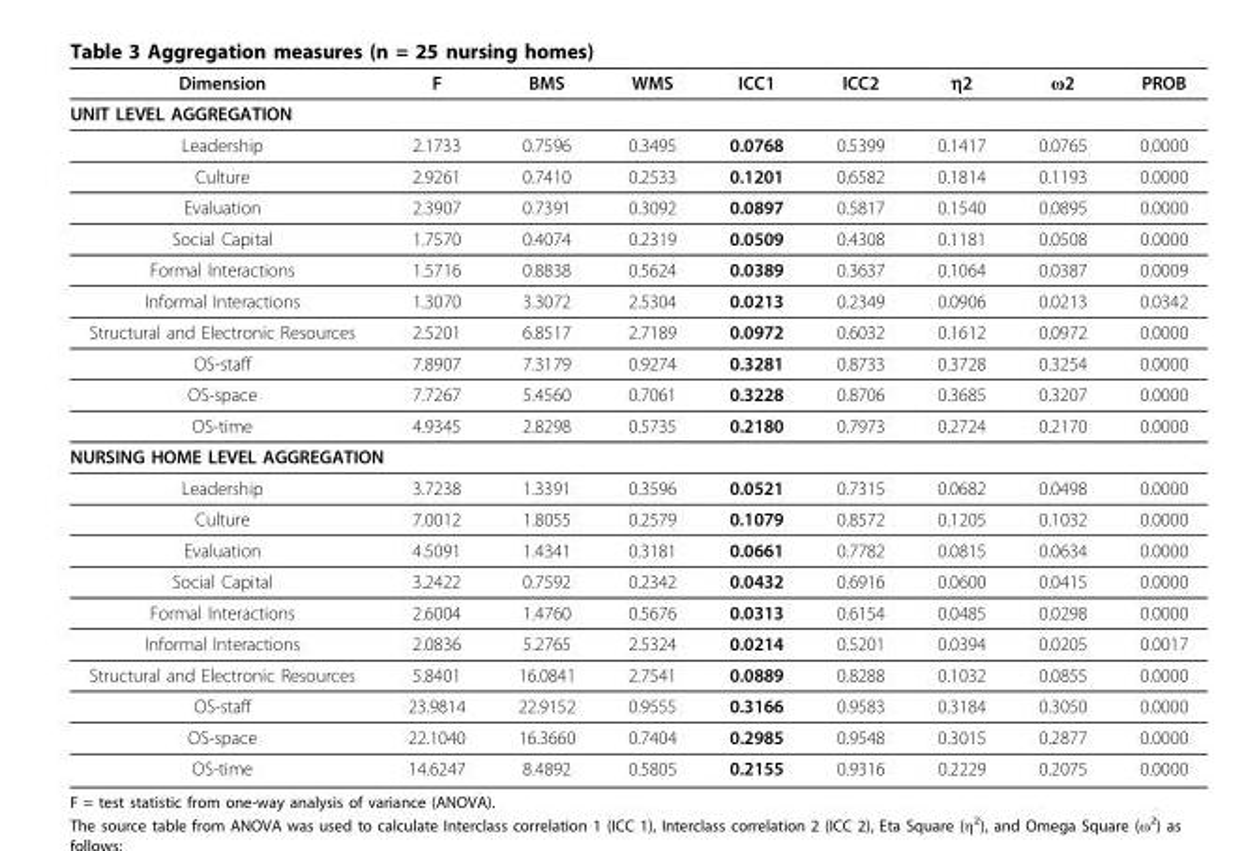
<table><thead><tr><td>Dimension</td><td>F</td><td>BMS</td><td>WMS</td><td>ICC1</td><td>ICC2</td><td>η2</td><td>ω2</td><td>PROB</td></tr></thead><tbody><tr><td colspan="9">UNIT LEVEL AGGREGATION</td></tr><tr><td>Leadership</td><td>2.1733</td><td>0.7596</td><td>0.3495</td><td>0.0768</td><td>0.5399</td><td>0.1417</td><td>0.0765</td><td>0.0000</td></tr><tr><td>Culture</td><td>2.9261</td><td>0.7410</td><td>0.2533</td><td>0.1201</td><td>0.6582</td><td>0.1814</td><td>0.1193</td><td>0.0000</td></tr><tr><td>Evaluation</td><td>2.3907</td><td>0.7391</td><td>0.3092</td><td>0.0897</td><td>0.5817</td><td>0.1540</td><td>0.0895</td><td>0.0000</td></tr><tr><td>Social Capital</td><td>1.7570</td><td>0.4074</td><td>0.2319</td><td>0.0509</td><td>0.4308</td><td>0.1181</td><td>0.0508</td><td>0.0000</td></tr><tr><td>Formal Interactions</td><td>1.5716</td><td>0.8838</td><td>0.5624</td><td>0.0389</td><td>0.3637</td><td>0.1064</td><td>0.0387</td><td>0.0009</td></tr><tr><td>Informal Interactions</td><td>1.3070</td><td>3.3072</td><td>2.5304</td><td>0.0213</td><td>0.2349</td><td>0.0906</td><td>0.0213</td><td>0.0342</td></tr><tr><td>Structural and Electronic Resources</td><td>2.5201</td><td>6.8517</td><td>2.7189</td><td>0.0972</td><td>0.6032</td><td>0.1612</td><td>0.0972</td><td>0.0000</td></tr><tr><td>OS-staff</td><td>7.8907</td><td>7.3179</td><td>0.9274</td><td>0.3281</td><td>0.8733</td><td>0.3728</td><td>0.3254</td><td>0.0000</td></tr><tr><td>OS-space</td><td>7.7267</td><td>5.4560</td><td>0.7061</td><td>0.3228</td><td>0.8706</td><td>0.3685</td><td>0.3207</td><td>0.0000</td></tr><tr><td>OS-time</td><td>4.9345</td><td>2.8298</td><td>0.5735</td><td>0.2180</td><td>0.7973</td><td>0.2724</td><td>0.2170</td><td>0.0000</td></tr><tr><td colspan="9">NURSING HOME LEVEL AGGREGATION</td></tr><tr><td>Leadership</td><td>3.7238</td><td>1.3391</td><td>0.3596</td><td>0.0521</td><td>0.7315</td><td>0.0682</td><td>0.0498</td><td>0.0000</td></tr><tr><td>Culture</td><td>7.0012</td><td>1.8055</td><td>0.2579</td><td>0.1079</td><td>0.8572</td><td>0.1205</td><td>0.1032</td><td>0.0000</td></tr><tr><td>Evaluation</td><td>4.5091</td><td>1.4341</td><td>0.3181</td><td>0.0661</td><td>0.7782</td><td>0.0815</td><td>0.0634</td><td>0.0000</td></tr><tr><td>Social Capital</td><td>3.2422</td><td>0.7592</td><td>0.2342</td><td>0.0432</td><td>0.6916</td><td>0.0600</td><td>0.0415</td><td>0.0000</td></tr><tr><td>Formal Interactions</td><td>2.6004</td><td>1.4760</td><td>0.5676</td><td>0.0313</td><td>0.6154</td><td>0.0485</td><td>0.0298</td><td>0.0000</td></tr><tr><td>Informal Interactions</td><td>2.0836</td><td>5.2765</td><td>2.5324</td><td>0.0214</td><td>0.5201</td><td>0.0394</td><td>0.0205</td><td>0.0017</td></tr><tr><td>Structural and Electronic Resources</td><td>5.8401</td><td>16.0841</td><td>2.7541</td><td>0.0889</td><td>0.8288</td><td>0.1032</td><td>0.0855</td><td>0.0000</td></tr><tr><td>OS-staff</td><td>23.9814</td><td>22.9152</td><td>0.9555</td><td>0.3166</td><td>0.9583</td><td>0.3184</td><td>0.3050</td><td>0.0000</td></tr><tr><td>OS-space</td><td>22.1040</td><td>16.3660</td><td>0.7404</td><td>0.2985</td><td>0.9548</td><td>0.3015</td><td>0.2877</td><td>0.0000</td></tr><tr><td>OS-time</td><td>14.6247</td><td>8.4892</td><td>0.5805</td><td>0.2155</td><td>0.9316</td><td>0.2229</td><td>0.2075</td><td>0.0000</td></tr></tbody></table>